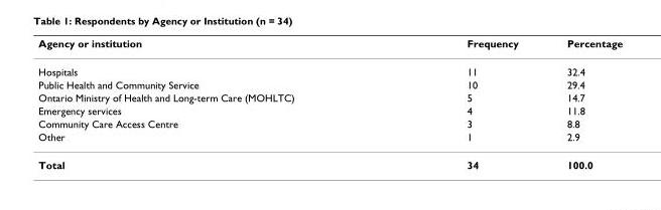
<table><thead><tr><td>Agency or institution</td><td>Frequency</td><td>Percentage</td></tr></thead><tbody><tr><td>Hospitals</td><td>11</td><td>32.4</td></tr><tr><td>Public Health and Community Service</td><td>10</td><td>29.4</td></tr><tr><td>Ontario Ministry of Health and Long-term Care (MOHLTC)</td><td>5</td><td>14.7</td></tr><tr><td>Emergency services</td><td>4</td><td>11.8</td></tr><tr><td>Community Care Access Centre</td><td>3</td><td>8.8</td></tr><tr><td>Other</td><td>1</td><td>2.9</td></tr><tr><td>Total</td><td>34</td><td>100.0</td></tr></tbody></table>